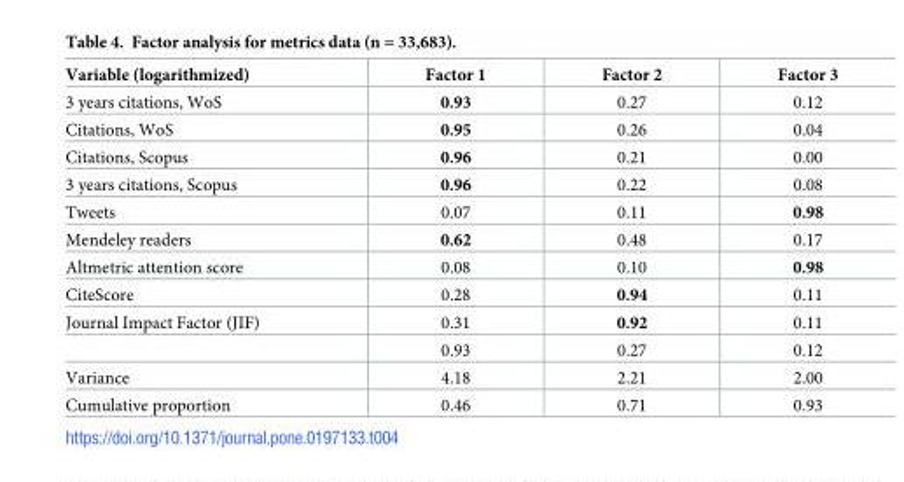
<table><thead><tr><td>Variable (logarithmized)</td><td>Factor 1</td><td>Factor 2</td><td>Factor 3</td></tr></thead><tbody><tr><td>3 years citations, WoS</td><td>0.93</td><td>0.27</td><td>0.12</td></tr><tr><td>Citations, WoS</td><td>0.95</td><td>0.26</td><td>0.04</td></tr><tr><td>Citations, Scopus</td><td>0.96</td><td>0.21</td><td>0.00</td></tr><tr><td>3 years citations, Scopus</td><td>0.96</td><td>0.22</td><td>0.08</td></tr><tr><td>Tweets</td><td>0.07</td><td>0.11</td><td>0.98</td></tr><tr><td>Mendeley readers</td><td>0.62</td><td>0.48</td><td>0.17</td></tr><tr><td>Altmetric attention score</td><td>0.08</td><td>0.10</td><td>0.98</td></tr><tr><td>CiteScore</td><td>0.28</td><td>0.94</td><td>0.11</td></tr><tr><td rowspan="2">Journal Impact Factor (JIF)</td><td>0.31</td><td>0.92</td><td>0.11</td></tr><tr><td>0.93</td><td>0.27</td><td>0.12</td></tr><tr><td>Variance</td><td>4.18</td><td>2.21</td><td>2.00</td></tr><tr><td>Cumulative proportion</td><td>0.46</td><td>0.71</td><td>0.93</td></tr></tbody></table>